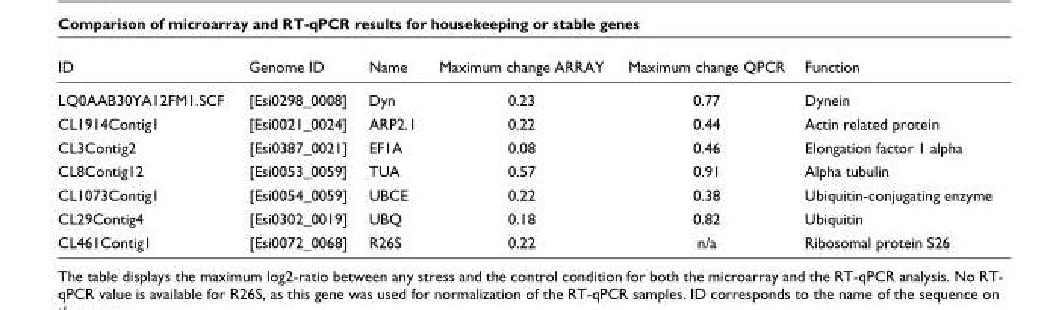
<table><thead><tr><td>ID</td><td>Genome ID</td><td>Name</td><td>Maximum change ARRAY</td><td>Maximum change QPCR</td><td>Function</td></tr></thead><tbody><tr><td>LQ0AAB30YA12FM1.SCF</td><td>[Esi0298_0008]</td><td>Dyn</td><td>0.23</td><td>0.77</td><td>Dynein</td></tr><tr><td>CL1914Contig1</td><td>[Esi0021_0024]</td><td>ARP2.1</td><td>0.22</td><td>0.44</td><td>Actin related protein</td></tr><tr><td>CL3Contig2</td><td>[Esi0387_0021]</td><td>EF1A</td><td>0.08</td><td>0.46</td><td>Elongation factor 1 alpha</td></tr><tr><td>CL8Contig12</td><td>[Esi0053_0059]</td><td>TUA</td><td>0.57</td><td>0.91</td><td>Alpha tubulin</td></tr><tr><td>CL1073Contig1</td><td>[Esi0054_0059]</td><td>UBCE</td><td>0.22</td><td>0.38</td><td>Ubiquitin-conjugating enzyme</td></tr><tr><td>CL29Contig4</td><td>[Esi0302_0019]</td><td>UBQ</td><td>0.18</td><td>0.82</td><td>Ubiquitin</td></tr><tr><td>CL461Contig1</td><td>[Esi0072_0068]</td><td>R26S</td><td>0.22</td><td>n/a</td><td>Ribosomal protein S26</td></tr></tbody></table>